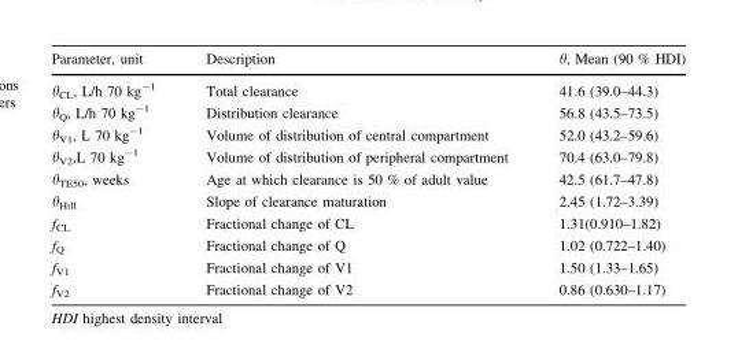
<table><thead><tr><td>Parameter, unit</td><td>Description</td><td>θ, Mean (90 % HDI)</td></tr></thead><tbody><tr><td>θ<sub>CL</sub>, L/h 70 kg<sup>-1</sup></td><td>Total clearance</td><td>41.6 (39.0–44.3)</td></tr><tr><td>θ<sub>Q</sub>, L/h 70 kg<sup>-1</sup></td><td>Distribution clearance</td><td>56.8 (43.5–73.5)</td></tr><tr><td>θ<sub>V1</sub>, L 70 kg<sup>-1</sup></td><td>Volume of distribution of central compartment</td><td>52.0 (43.2–59.6)</td></tr><tr><td>θ<sub>V2</sub>,L 70 kg<sup>-1</sup></td><td>Volume of distribution of peripheral compartment</td><td>70.4 (63.0–79.8)</td></tr><tr><td>θ<sub>TE50</sub>, weeks</td><td>Age at which clearance is 50 % of adult value</td><td>42.5 (61.7–47.8)</td></tr><tr><td>θ<sub>Hill</sub></td><td>Slope of clearance maturation</td><td>2.45 (1.72–3.39)</td></tr><tr><td>f<sub>CL</sub></td><td>Fractional change of CL</td><td>1.31(0.910–1.82)</td></tr><tr><td>f<sub>Q</sub></td><td>Fractional change of Q</td><td>1.02 (0.722–1.40)</td></tr><tr><td>f<sub>V1</sub></td><td>Fractional change of V1</td><td>1.50 (1.33–1.65)</td></tr><tr><td>f<sub>V2</sub></td><td>Fractional change of V2</td><td>0.86 (0.630–1.17)</td></tr></tbody></table>